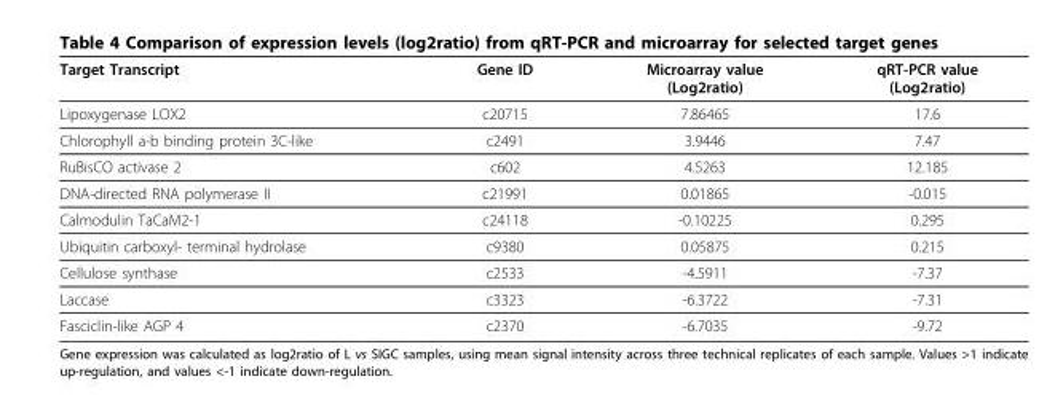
<table><thead><tr><td>Target Transcript</td><td>Gene ID</td><td>Microarray value (Log2ratio)</td><td>qRT-PCR value (Log2ratio)</td></tr></thead><tbody><tr><td>Lipoxygenase LOX2</td><td>c20715</td><td>7.86465</td><td>17.6</td></tr><tr><td>Chlorophyll a-b binding protein 3C-like</td><td>c2491</td><td>3.9446</td><td>7.47</td></tr><tr><td>RuBisCO activase 2</td><td>c602</td><td>4.5263</td><td>12.185</td></tr><tr><td>DNA-directed RNA polymerase II</td><td>c21991</td><td>0.01865</td><td>-0.015</td></tr><tr><td>Calmodulin TaCaM2-1</td><td>c24118</td><td>-0.10225</td><td>0.295</td></tr><tr><td>Ubiquitin carboxyl- terminal hydrolase</td><td>c9380</td><td>0.05875</td><td>0.215</td></tr><tr><td>Cellulose synthase</td><td>c2533</td><td>-4.5911</td><td>-7.37</td></tr><tr><td>Laccase</td><td>c3323</td><td>-6.3722</td><td>-7.31</td></tr><tr><td>Fasciclin-like AGP 4</td><td>c2370</td><td>-6.7035</td><td>-9.72</td></tr></tbody></table>